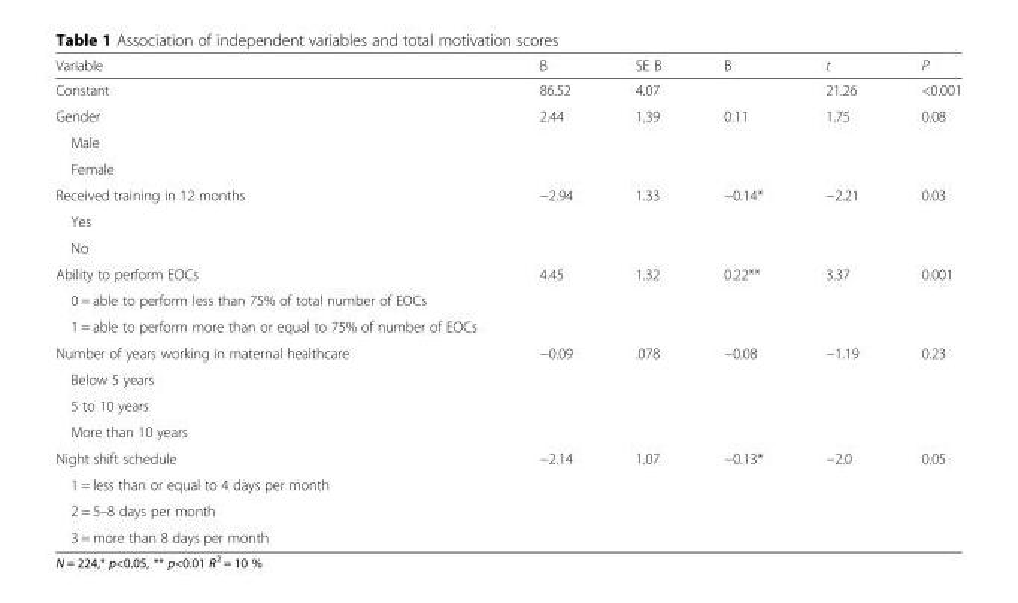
<table><thead><tr><td>Variable</td><td>B</td><td>SE B</td><td>Β</td><td>t</td><td>P</td></tr></thead><tbody><tr><td>Constant</td><td>86.52</td><td>4.07</td><td></td><td>21.26</td><td>&lt;0.001</td></tr><tr><td>Gender</td><td>2.44</td><td>1.39</td><td>0.11</td><td>1.75</td><td>0.08</td></tr><tr><td colspan="6">Male</td></tr><tr><td colspan="6">Female</td></tr><tr><td>Received training in 12 months</td><td>−2.94</td><td>1.33</td><td>−0.14*</td><td>−2.21</td><td>0.03</td></tr><tr><td colspan="6">Yes</td></tr><tr><td colspan="6">No</td></tr><tr><td>Ability to perform EOCs</td><td>4.45</td><td>1.32</td><td>0.22**</td><td>3.37</td><td>0.001</td></tr><tr><td colspan="6">0 = able to perform less than 75% of total number of EOCs</td></tr><tr><td colspan="6">1 = able to perform more than or equal to 75% of number of EOCs</td></tr><tr><td>Number of years working in maternal healthcare</td><td>−0.09</td><td>.078</td><td>−0.08</td><td>−1.19</td><td>0.23</td></tr><tr><td colspan="6">Below 5 years</td></tr><tr><td colspan="6">5 to 10 years</td></tr><tr><td colspan="6">More than 10 years</td></tr><tr><td>Night shift schedule</td><td>−2.14</td><td>1.07</td><td>−0.13*</td><td>−2.0</td><td>0.05</td></tr><tr><td colspan="6">1 = less than or equal to 4 days per month</td></tr><tr><td colspan="6">2 = 5–8 days per month</td></tr><tr><td>3 = more than 8 days per month</td><td></td><td></td><td></td><td></td><td></td></tr></tbody></table>